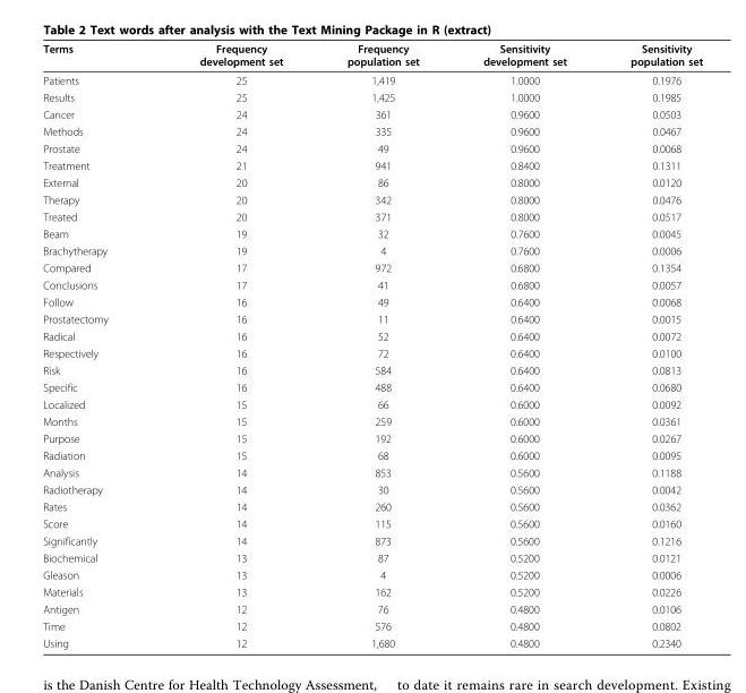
<table><thead><tr><td>Terms</td><td>Frequency development set</td><td>Frequency population set</td><td>Sensitivity development set</td><td>Sensitivity population set</td></tr></thead><tbody><tr><td>Patients</td><td>25</td><td>1,419</td><td>1.0000</td><td>0.1976</td></tr><tr><td>Results</td><td>25</td><td>1,425</td><td>1.0000</td><td>0.1985</td></tr><tr><td>Cancer</td><td>24</td><td>361</td><td>0.9600</td><td>0.0503</td></tr><tr><td>Methods</td><td>24</td><td>335</td><td>0.9600</td><td>0.0467</td></tr><tr><td>Prostate</td><td>24</td><td>49</td><td>0.9600</td><td>0.0068</td></tr><tr><td>Treatment</td><td>21</td><td>941</td><td>0.8400</td><td>0.1311</td></tr><tr><td>External</td><td>20</td><td>86</td><td>0.8000</td><td>0.0120</td></tr><tr><td>Therapy</td><td>20</td><td>342</td><td>0.8000</td><td>0.0476</td></tr><tr><td>Treated</td><td>20</td><td>371</td><td>0.8000</td><td>0.0517</td></tr><tr><td>Beam</td><td>19</td><td>32</td><td>0.7600</td><td>0.0045</td></tr><tr><td>Brachytherapy</td><td>19</td><td>4</td><td>0.7600</td><td>0.0006</td></tr><tr><td>Compared</td><td>17</td><td>972</td><td>0.6800</td><td>0.1354</td></tr><tr><td>Conclusions</td><td>17</td><td>41</td><td>0.6800</td><td>0.0057</td></tr><tr><td>Follow</td><td>16</td><td>49</td><td>0.6400</td><td>0.0068</td></tr><tr><td>Prostatectomy</td><td>16</td><td>11</td><td>0.6400</td><td>0.0015</td></tr><tr><td>Radical</td><td>16</td><td>52</td><td>0.6400</td><td>0.0072</td></tr><tr><td>Respectively</td><td>16</td><td>72</td><td>0.6400</td><td>0.0100</td></tr><tr><td>Risk</td><td>16</td><td>584</td><td>0.6400</td><td>0.0813</td></tr><tr><td>Specific</td><td>16</td><td>488</td><td>0.6400</td><td>0.0680</td></tr><tr><td>Localized</td><td>15</td><td>66</td><td>0.6000</td><td>0.0092</td></tr><tr><td>Months</td><td>15</td><td>259</td><td>0.6000</td><td>0.0361</td></tr><tr><td>Purpose</td><td>15</td><td>192</td><td>0.6000</td><td>0.0267</td></tr><tr><td>Radiation</td><td>15</td><td>68</td><td>0.6000</td><td>0.0095</td></tr><tr><td>Analysis</td><td>14</td><td>853</td><td>0.5600</td><td>0.1188</td></tr><tr><td>Radiotherapy</td><td>14</td><td>30</td><td>0.5600</td><td>0.0042</td></tr><tr><td>Rates</td><td>14</td><td>260</td><td>0.5600</td><td>0.0362</td></tr><tr><td>Score</td><td>14</td><td>115</td><td>0.5600</td><td>0.0160</td></tr><tr><td>Significantly</td><td>14</td><td>873</td><td>0.5600</td><td>0.1216</td></tr><tr><td>Biochemical</td><td>13</td><td>87</td><td>0.5200</td><td>0.0121</td></tr><tr><td>Gleason</td><td>13</td><td>4</td><td>0.5200</td><td>0.0006</td></tr><tr><td>Materials</td><td>13</td><td>162</td><td>0.5200</td><td>0.0226</td></tr><tr><td>Antigen</td><td>12</td><td>76</td><td>0.4800</td><td>0.0106</td></tr><tr><td>Time</td><td>12</td><td>576</td><td>0.4800</td><td>0.0802</td></tr><tr><td>Using</td><td>12</td><td>1,680</td><td>0.4800</td><td>0.2340</td></tr></tbody></table>